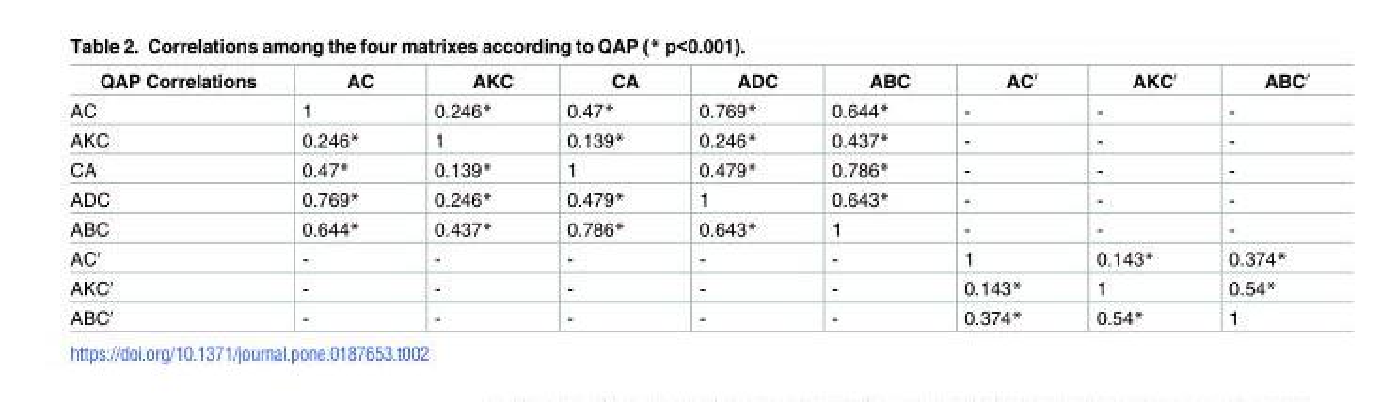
<table><thead><tr><td>QAP Correlations</td><td>AC</td><td>AKC</td><td>CA</td><td>ADC</td><td>ABC</td><td>AC′</td><td>AKC′</td><td>ABC′</td></tr></thead><tbody><tr><td>AC</td><td>1</td><td>0.246*</td><td>0.47*</td><td>0.769*</td><td>0.644*</td><td>-</td><td>-</td><td>-</td></tr><tr><td>AKC</td><td>0.246*</td><td>1</td><td>0.139*</td><td>0.246*</td><td>0.437*</td><td>-</td><td>-</td><td>-</td></tr><tr><td>CA</td><td>0.47*</td><td>0.139*</td><td>1</td><td>0.479*</td><td>0.786*</td><td>-</td><td>-</td><td>-</td></tr><tr><td>ADC</td><td>0.769*</td><td>0.246*</td><td>0.479*</td><td>1</td><td>0.643*</td><td>-</td><td>-</td><td>-</td></tr><tr><td>ABC</td><td>0.644*</td><td>0.437*</td><td>0.786*</td><td>0.643*</td><td>1</td><td>-</td><td>-</td><td>-</td></tr><tr><td>AC′</td><td>-</td><td>-</td><td>-</td><td>-</td><td>-</td><td>1</td><td>0.143*</td><td>0.374*</td></tr><tr><td>AKC′</td><td>-</td><td>-</td><td>-</td><td>-</td><td>-</td><td>0.143*</td><td>1</td><td>0.54*</td></tr><tr><td>ABC′</td><td>-</td><td>-</td><td>-</td><td>-</td><td>-</td><td>0.374*</td><td>0.54*</td><td>1</td></tr></tbody></table>